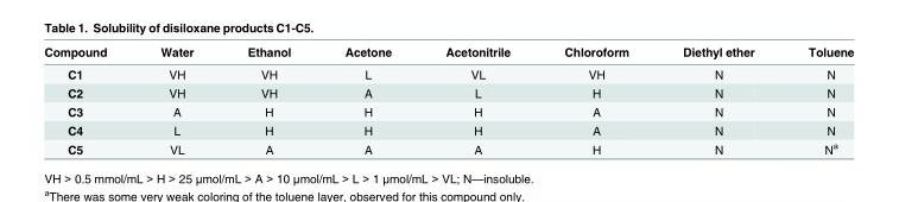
<table><thead><tr><td>Compound</td><td>Water</td><td>Ethanol</td><td>Acetone</td><td>Acetonitrile</td><td>Chloroform</td><td>Diethyl ether</td><td>Toluene</td></tr></thead><tbody><tr><td>C1</td><td>VH</td><td>VH</td><td>L</td><td>VL</td><td>VH</td><td>N</td><td>N</td></tr><tr><td>C2</td><td>VH</td><td>VH</td><td>A</td><td>L</td><td>H</td><td>N</td><td>N</td></tr><tr><td>C3</td><td>A</td><td>H</td><td>H</td><td>H</td><td>A</td><td>N</td><td>N</td></tr><tr><td>C4</td><td>L</td><td>H</td><td>H</td><td>H</td><td>A</td><td>N</td><td>N</td></tr><tr><td>C5</td><td>VL</td><td>A</td><td>A</td><td>A</td><td>H</td><td>N</td><td>N<sup>a</sup></td></tr></tbody></table>